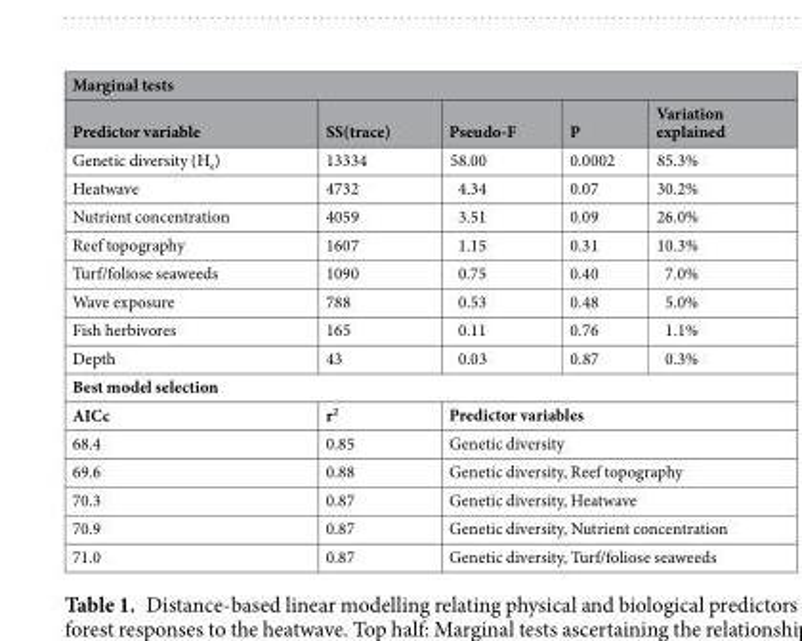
<table><thead><tr><td colspan="5">Marginal tests</td></tr><tr><td>Predictor variable</td><td>SS(trace)</td><td>Pseudo-F</td><td>P</td><td>Variation explained</td></tr></thead><tbody><tr><td>Genetic diversity (H<sub>e</sub>)</td><td>13334</td><td>58.00</td><td>0.0002</td><td>85.3%</td></tr><tr><td>Heatwave</td><td>4732</td><td>4.34</td><td>0.07</td><td>30.2%</td></tr><tr><td>Nutrient concentration</td><td>4059</td><td>3.51</td><td>0.09</td><td>26.0%</td></tr><tr><td>Reef topography</td><td>1607</td><td>1.15</td><td>0.31</td><td>10.3%</td></tr><tr><td>Turf/foliose seaweeds</td><td>1090</td><td>0.75</td><td>0.40</td><td>7.0%</td></tr><tr><td>Wave exposure</td><td>788</td><td>0.53</td><td>0.48</td><td>5.0%</td></tr><tr><td>Fish herbivores</td><td>165</td><td>0.11</td><td>0.76</td><td>1.1%</td></tr><tr><td>Depth</td><td>43</td><td>0.03</td><td>0.87</td><td>0.3%</td></tr><tr><td colspan="5">Best model selection</td></tr><tr><td>AICc</td><td>r<sup>2</sup></td><td colspan="3">Predictor variables</td></tr><tr><td>68.4</td><td>0.85</td><td colspan="3">Genetic diversity</td></tr><tr><td>69.6</td><td>0.88</td><td colspan="3">Genetic diversity, Reef topography</td></tr><tr><td>70.3</td><td>0.87</td><td colspan="3">Genetic diversity, Heatwave</td></tr><tr><td>70.9</td><td>0.87</td><td colspan="3">Genetic diversity, Nutrient concentration</td></tr><tr><td>71.0</td><td>0.87</td><td colspan="3">Genetic diversity, Turf/foliose seaweeds</td></tr></tbody></table>